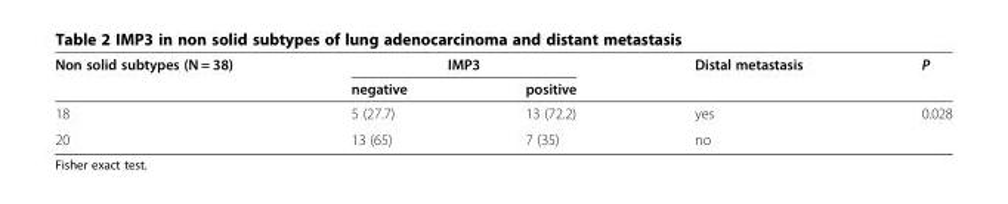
<table><thead><tr><td rowspan="2">Non solid subtypes (N = 38)</td><td colspan="2">IMP3</td><td rowspan="2">Distal metastasis</td><td rowspan="2">P</td></tr><tr><td>negative</td><td>positive</td></tr></thead><tbody><tr><td>18</td><td>5 (27.7)</td><td>13 (72.2)</td><td>yes</td><td>0.028</td></tr><tr><td>20</td><td>13 (65)</td><td>7 (35)</td><td>no</td><td></td></tr></tbody></table>